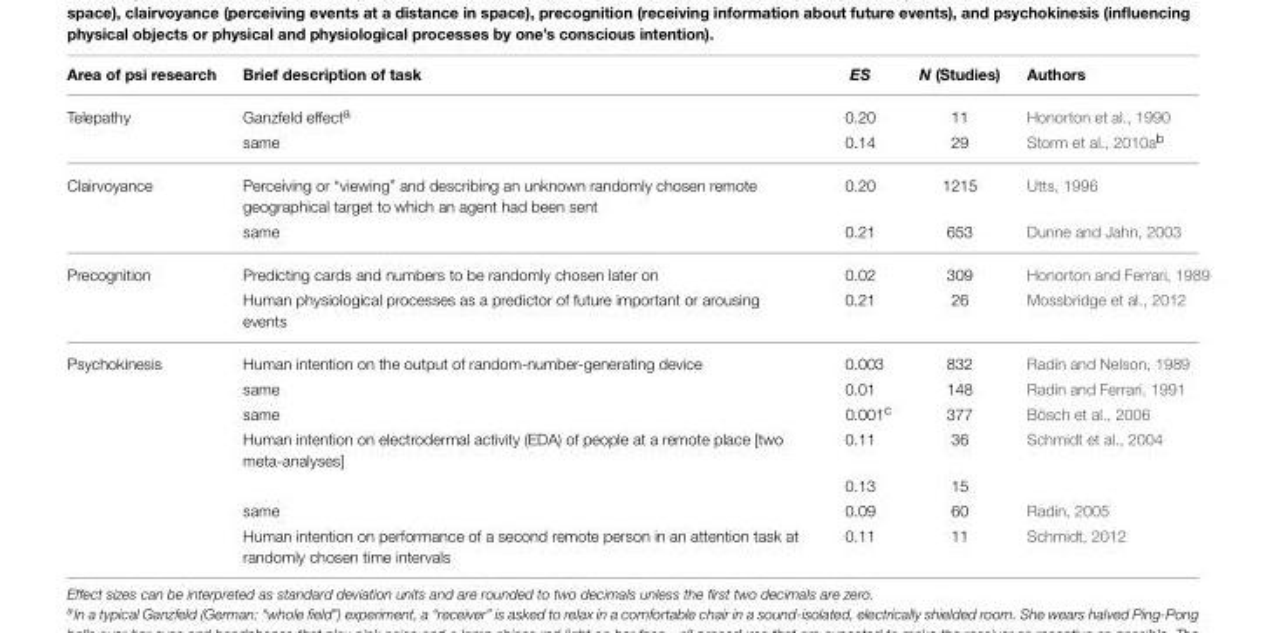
<table><thead><tr><td>Area of psi research</td><td>Brief description of task</td><td>ES</td><td>N (Studies)</td><td>Authors</td></tr></thead><tbody><tr><td rowspan="2">Telepathy</td><td>Ganzfeld effect<sup>a</sup></td><td>0.20</td><td>11</td><td>Honorton et al., 1990</td></tr><tr><td>same</td><td>0.14</td><td>29</td><td>Storm et al., 2010a<sup>b</sup></td></tr><tr><td rowspan="2">Clairvoyance</td><td>Perceiving or “viewing” and describing an unknown randomly chosen remote geographical target to which an agent had been sent</td><td>0.20</td><td>1215</td><td>Utts, 1996</td></tr><tr><td>same</td><td>0.21</td><td>653</td><td>Dunne and Jahn, 2003</td></tr><tr><td rowspan="2">Precognition</td><td>Predicting cards and numbers to be randomly chosen later on</td><td>0.02</td><td>309</td><td>Honorton and Ferrari, 1989</td></tr><tr><td>Human physiological processes as a predictor of future important or arousing events</td><td>0.21</td><td>26</td><td>Mossbridge et al., 2012</td></tr><tr><td rowspan="7">Psychokinesis</td><td>Human intention on the output of random-number-generating device</td><td>0.003</td><td>832</td><td>Radin and Nelson, 1989</td></tr><tr><td>same</td><td>0.01</td><td>148</td><td>Radin and Ferrari, 1991</td></tr><tr><td>same</td><td>0.001<sup>c</sup></td><td>377</td><td>Bösch et al., 2006</td></tr><tr><td>Human intention on electrodermal activity (EDA) of people at a remote place [two meta-analyses]</td><td>0.11</td><td>36</td><td>Schmidt et al., 2004</td></tr><tr><td></td><td>0.13</td><td>15</td><td></td></tr><tr><td>same</td><td>0.09</td><td>60</td><td>Radin, 2005</td></tr><tr><td>Human intention on performance of a second remote person in an attention task at randomly chosen time intervals</td><td>0.11</td><td>11</td><td>Schmidt, 2012</td></tr></tbody></table>